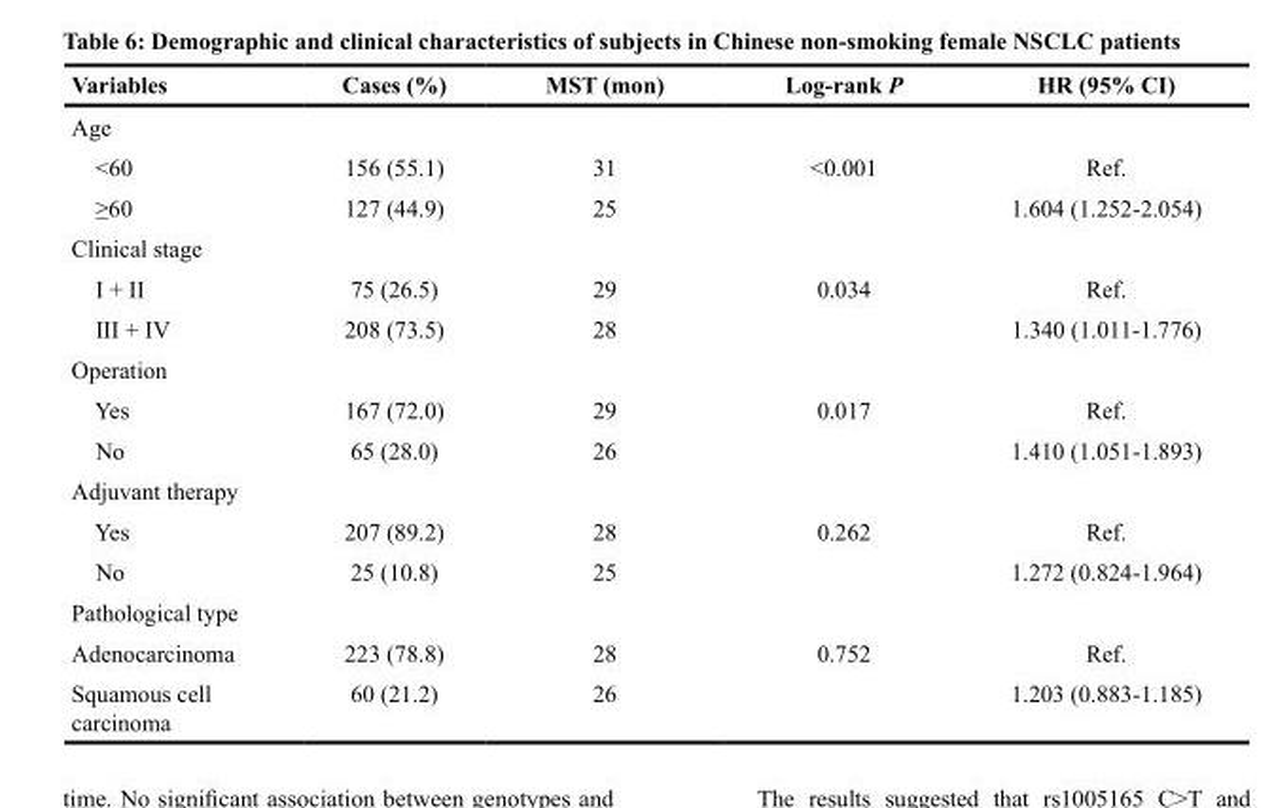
<table><thead><tr><td>Variables</td><td>Cases (%)</td><td>MST (mon)</td><td>Log-rank P</td><td>HR (95% CI)</td></tr></thead><tbody><tr><td colspan="5">Age</td></tr><tr><td>&lt;60</td><td>156 (55.1)</td><td>31</td><td>&lt;0.001</td><td>Ref.</td></tr><tr><td>≥60</td><td>127 (44.9)</td><td>25</td><td></td><td>1.604 (1.252-2.054)</td></tr><tr><td colspan="5">Clinical stage</td></tr><tr><td>I + II</td><td>75 (26.5)</td><td>29</td><td>0.034</td><td>Ref.</td></tr><tr><td>III + IV</td><td>208 (73.5)</td><td>28</td><td></td><td>1.340 (1.011-1.776)</td></tr><tr><td colspan="5">Operation</td></tr><tr><td>Yes</td><td>167 (72.0)</td><td>29</td><td>0.017</td><td>Ref.</td></tr><tr><td>No</td><td>65 (28.0)</td><td>26</td><td></td><td>1.410 (1.051-1.893)</td></tr><tr><td colspan="5">Adjuvant therapy</td></tr><tr><td>Yes</td><td>207 (89.2)</td><td>28</td><td>0.262</td><td>Ref.</td></tr><tr><td>No</td><td>25 (10.8)</td><td>25</td><td></td><td>1.272 (0.824-1.964)</td></tr><tr><td colspan="5">Pathological type</td></tr><tr><td>Adenocarcinoma</td><td>223 (78.8)</td><td>28</td><td>0.752</td><td>Ref.</td></tr><tr><td>Squamous cell carcinoma</td><td>60 (21.2)</td><td>26</td><td></td><td>1.203 (0.883-1.185)</td></tr></tbody></table>